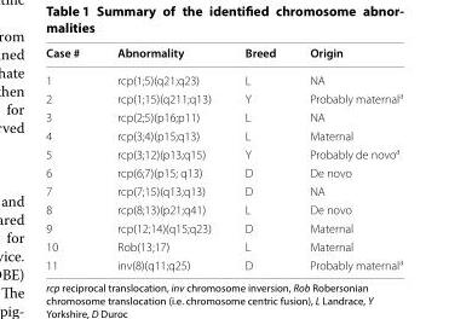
<table><thead><tr><td>Case #</td><td>Abnormality</td><td>Breed</td><td>Origin</td></tr></thead><tbody><tr><td>1</td><td>rcp(1;5)(q21;q23)</td><td>L</td><td>NA</td></tr><tr><td>2</td><td>rcp(1;15)(q211;q13)</td><td>Y</td><td>Probably maternal<sup>a</sup></td></tr><tr><td>3</td><td>rcp(2;5)(p16;p11)</td><td>L</td><td>NA</td></tr><tr><td>4</td><td>rcp(3;4)(p15;q13)</td><td>L</td><td>Maternal</td></tr><tr><td>5</td><td>rcp(3;12)(p13;q15)</td><td>Y</td><td>Probably de novo<sup>a</sup></td></tr><tr><td>6</td><td>rcp(6;7)(p15; q13)</td><td>D</td><td>De novo</td></tr><tr><td>7</td><td>rcp(7;15)(q13;q13)</td><td>D</td><td>NA</td></tr><tr><td>8</td><td>rcp(8;13)(p21;q41)</td><td>L</td><td>De novo</td></tr><tr><td>9</td><td>rcp(12;14)(q15;q23)</td><td>D</td><td>Maternal</td></tr><tr><td>10</td><td>Rob(13;17)</td><td>L</td><td>Maternal</td></tr><tr><td>11</td><td>inv(8)(q11;q25)</td><td>D</td><td>Probably maternal<sup>a</sup></td></tr></tbody></table>